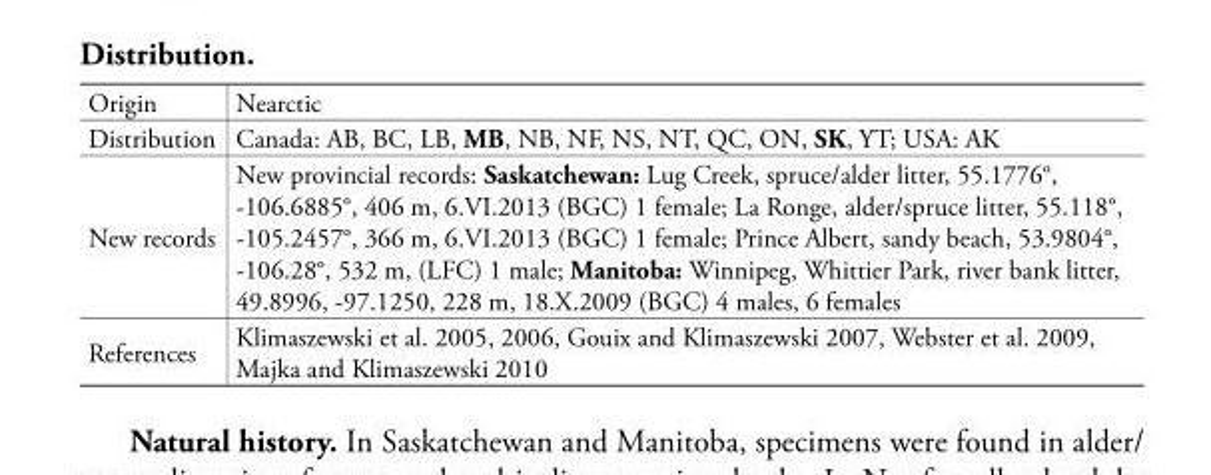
<table><tbody><tr><td>Origin</td><td>Nearctic</td></tr><tr><td>Distribution</td><td>Canada: AB, BC, LB, MB, NB, NF, NS, NT, QC, ON, SK, YT; USA: AK</td></tr><tr><td>New records</td><td>New provincial records: Saskatchewan: Lug Creek, spruce/alder litter, 55.1776°, -106.6885°, 406 m, 6.VI.2013 (BGC) 1 female; La Ronge, alder/spruce litter, 55.118°, -105.2457°, 366 m, 6.VI.2013 (BGC) 1 female; Prince Albert, sandy beach, 53.9804°, -106.28°, 532 m, (LFC) 1 male; Manitoba: Winnipeg, Whittier Park, river bank litter, 49.8996, -97.1250, 228 m, 18.X.2009 (BGC) 4 males, 6 females</td></tr><tr><td>References</td><td>Klimaszewski et al. 2005, 2006, Gouix and Klimaszewski 2007, Webster et al. 2009, Majka and Klimaszewski 2010</td></tr></tbody></table>